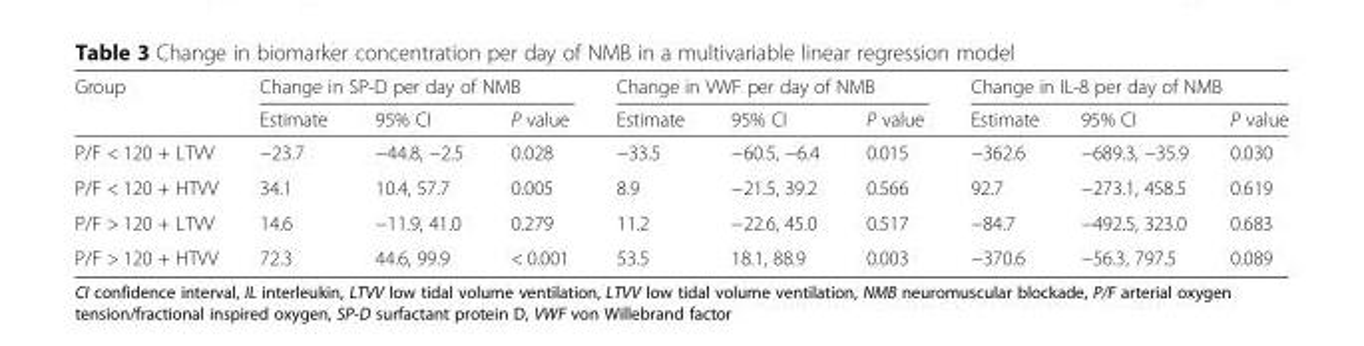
<table><thead><tr><td rowspan="2">Group</td><td colspan="3">Change in SP-D per day of NMB</td><td colspan="3">Change in VWF per day of NMB</td><td colspan="3">Change in IL-8 per day of NMB</td></tr><tr><td>Estimate</td><td>95% CI</td><td>P value</td><td>Estimate</td><td>95% CI</td><td>P value</td><td>Estimate</td><td>95% CI</td><td>P value</td></tr></thead><tbody><tr><td>P/F &lt; 120 + LTVV</td><td>−23.7</td><td>−44.8, −2.5</td><td>0.028</td><td>−33.5</td><td>−60.5, −6.4</td><td>0.015</td><td>−362.6</td><td>−689.3, −35.9</td><td>0.030</td></tr><tr><td>P/F &lt; 120 + HTVV</td><td>34.1</td><td>10.4, 57.7</td><td>0.005</td><td>8.9</td><td>−21.5, 39.2</td><td>0.566</td><td>92.7</td><td>−273.1, 458.5</td><td>0.619</td></tr><tr><td>P/F &gt; 120 + LTVV</td><td>14.6</td><td>−11.9, 41.0</td><td>0.279</td><td>11.2</td><td>−22.6, 45.0</td><td>0.517</td><td>−84.7</td><td>−492.5, 323.0</td><td>0.683</td></tr><tr><td>P/F &gt; 120 + HTVV</td><td>72.3</td><td>44.6, 99.9</td><td>&lt; 0.001</td><td>53.5</td><td>18.1, 88.9</td><td>0.003</td><td>−370.6</td><td>−56.3, 797.5</td><td>0.089</td></tr></tbody></table>